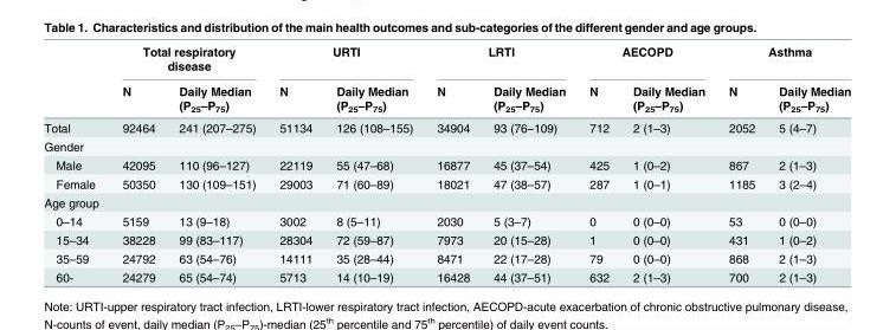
<table><thead><tr><td rowspan="2"></td><td colspan="2">Total respiratory disease</td><td colspan="2">URTI</td><td colspan="2">LRTI</td><td colspan="2">AECOPD</td><td colspan="2">Asthma</td></tr><tr><td>N</td><td>Daily Median (P<sub>25</sub>–P<sub>75</sub>)</td><td>N</td><td>Daily Median (P<sub>25</sub>–P<sub>75</sub>)</td><td>N</td><td>Daily Median (P<sub>25</sub>–P<sub>75</sub>)</td><td>N</td><td>Daily Median (P<sub>25</sub>–P<sub>75</sub>)</td><td>N</td><td>Daily Median (P<sub>25</sub>–P<sub>75</sub>)</td></tr></thead><tbody><tr><td>Total</td><td>92464</td><td>241 (207–275)</td><td>51134</td><td>126 (108–155)</td><td>34904</td><td>93 (76–109)</td><td>712</td><td>2 (1–3)</td><td>2052</td><td>5 (4–7)</td></tr><tr><td colspan="11">Gender</td></tr><tr><td>Male</td><td>42095</td><td>110 (96–127)</td><td>22119</td><td>55 (47–68)</td><td>16877</td><td>45 (37–54)</td><td>425</td><td>1 (0–2)</td><td>867</td><td>2 (1–3)</td></tr><tr><td>Female</td><td>50350</td><td>130 (109–151)</td><td>29003</td><td>71 (60–89)</td><td>18021</td><td>47 (38–57)</td><td>287</td><td>1 (0–1)</td><td>1185</td><td>3 (2–4)</td></tr><tr><td colspan="11">Age group</td></tr><tr><td>0–14</td><td>5159</td><td>13 (9–18)</td><td>3002</td><td>8 (5–11)</td><td>2030</td><td>5 (3–7)</td><td>0</td><td>0 (0–0)</td><td>53</td><td>0 (0–0)</td></tr><tr><td>15–34</td><td>38228</td><td>99 (83–117)</td><td>28304</td><td>72 (59–87)</td><td>7973</td><td>20 (15–28)</td><td>1</td><td>0 (0–0)</td><td>431</td><td>1 (0–2)</td></tr><tr><td>35–59</td><td>24792</td><td>63 (54–76)</td><td>14111</td><td>35 (28–44)</td><td>8471</td><td>22 (17–28)</td><td>79</td><td>0 (0–0)</td><td>868</td><td>2 (1–3)</td></tr><tr><td>60-</td><td>24279</td><td>65 (54–74)</td><td>5713</td><td>14 (10–19)</td><td>16428</td><td>44 (37–51)</td><td>632</td><td>2 (1–3)</td><td>700</td><td>2 (1–3)</td></tr></tbody></table>